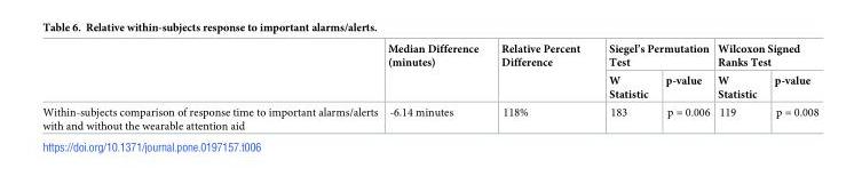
<table><thead><tr><td rowspan="2"></td><td rowspan="2">Median Difference (minutes)</td><td rowspan="2">Relative Percent Difference</td><td colspan="2">Siegel’s Permutation Test</td><td colspan="2">Wilcoxon Signed Ranks Test</td></tr><tr><td>W Statistic</td><td>p-value</td><td>W Statistic</td><td>p-value</td></tr></thead><tbody><tr><td>Within-subjects comparison of response time to important alarms/alerts with and without the wearable attention aid</td><td>-6.14 minutes</td><td>118%</td><td>183</td><td>p = 0.006</td><td>119</td><td>p = 0.008</td></tr></tbody></table>